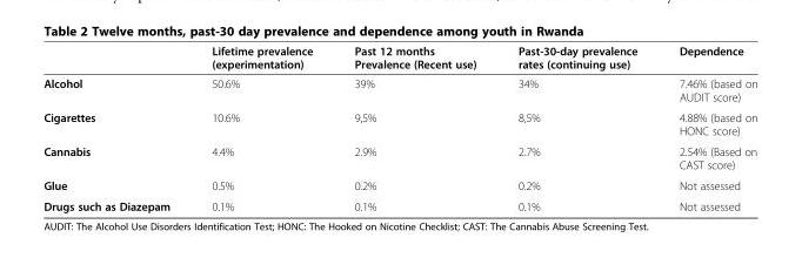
<table><thead><tr><td></td><td>Lifetime prevalence (experimentation)</td><td>Past 12 months Prevalence (Recent use)</td><td>Past-30-day prevalence rates (continuing use)</td><td>Dependence</td></tr></thead><tbody><tr><td>Alcohol</td><td>50.6%</td><td>39%</td><td>34%</td><td>7.46% (based on AUDIT score)</td></tr><tr><td>Cigarettes</td><td>10.6%</td><td>9,5%</td><td>8,5%</td><td>4.88% (based on HONC score)</td></tr><tr><td>Cannabis</td><td>4.4%</td><td>2.9%</td><td>2.7%</td><td>2.54% (Based on CAST score)</td></tr><tr><td>Glue</td><td>0.5%</td><td>0.2%</td><td>0.2%</td><td>Not assessed</td></tr><tr><td>Drugs such as Diazepam</td><td>0.1%</td><td>0.1%</td><td>0.1%</td><td>Not assessed</td></tr></tbody></table>